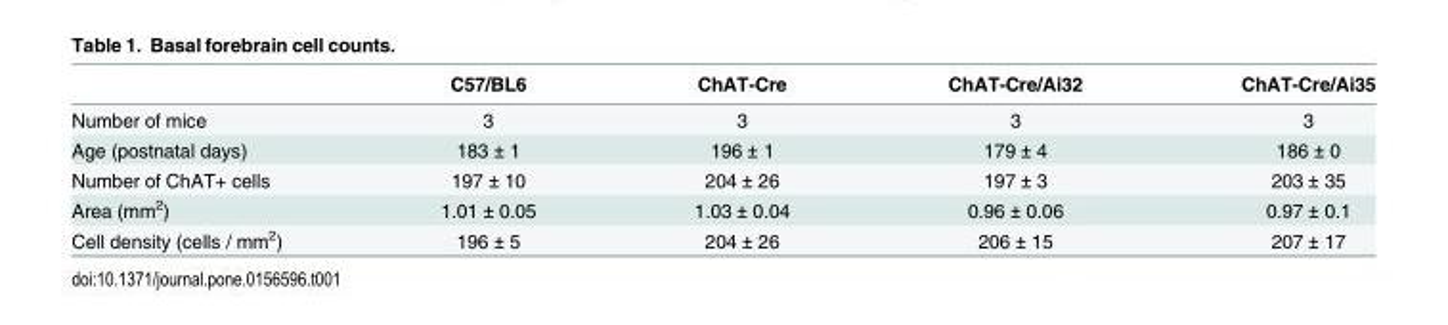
<table><thead><tr><td></td><td>C57/BL6</td><td>ChAT-Cre</td><td>ChAT-Cre/Ai32</td><td>ChAT-Cre/Ai35</td></tr></thead><tbody><tr><td>Number of mice</td><td>3</td><td>3</td><td>3</td><td>3</td></tr><tr><td>Age (postnatal days)</td><td>183 ± 1</td><td>196 ± 1</td><td>179 ± 4</td><td>186 ± 0</td></tr><tr><td>Number of ChAT+ cells</td><td>197 ± 10</td><td>204 ± 26</td><td>197 ± 3</td><td>203 ± 35</td></tr><tr><td>Area (mm<sup>2</sup>)</td><td>1.01 ± 0.05</td><td>1.03 ± 0.04</td><td>0.96 ± 0.06</td><td>0.97 ± 0.1</td></tr><tr><td>Cell density (cells / mm<sup>2</sup>)</td><td>196 ± 5</td><td>204 ± 26</td><td>206 ± 15</td><td>207 ± 17</td></tr></tbody></table>